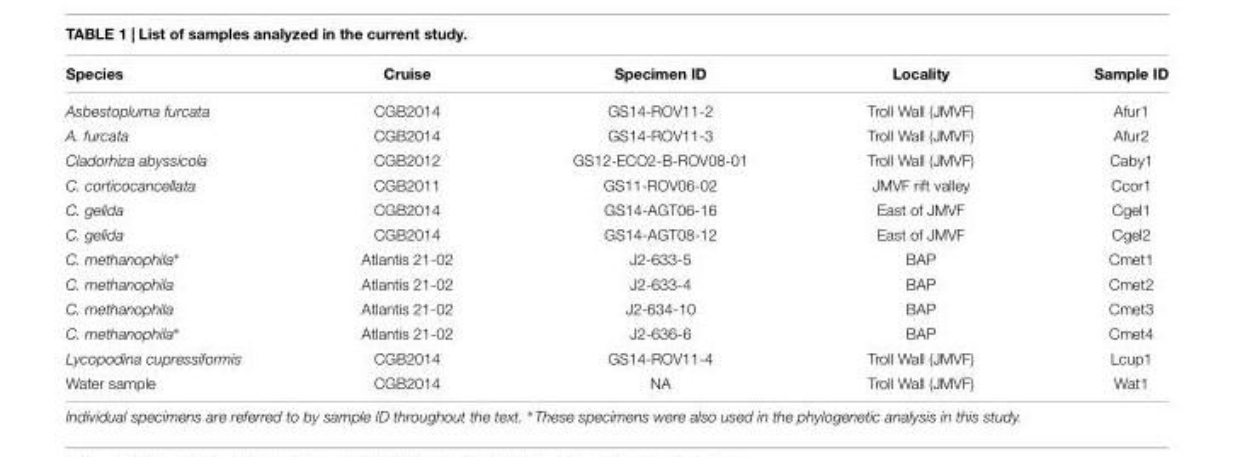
<table><thead><tr><td>Species</td><td>Cruise</td><td>Specimen ID</td><td>Locality</td><td>Sample ID</td></tr></thead><tbody><tr><td>Asbestopluma furcata</td><td>CGB2014</td><td>GS14-ROV11-2</td><td>Troll Wall (JMVF)</td><td>Afur1</td></tr><tr><td>A. furcata</td><td>CGB2014</td><td>GS14-ROV11-3</td><td>Troll Wall (JMVF)</td><td>Afur2</td></tr><tr><td>Cladorhiza abyssicola</td><td>CGB2012</td><td>GS12-ECO2-B-ROV08-01</td><td>Troll Wall (JMVF)</td><td>Caby1</td></tr><tr><td>C. corticocancellata</td><td>CGB2011</td><td>GS11-ROV06-02</td><td>JMVF rift valley</td><td>Ccor1</td></tr><tr><td>C. gelida</td><td>CGB2014</td><td>GS14-AGT06-16</td><td>East of JMVF</td><td>Cgel1</td></tr><tr><td>C. gelida</td><td>CGB2014</td><td>GS14-AGT08-12</td><td>East of JMVF</td><td>Cgel2</td></tr><tr><td>C. methanophila∗</td><td>Atlantis 21-02</td><td>J2-633-5</td><td>BAP</td><td>Cmet1</td></tr><tr><td>C. methanophila</td><td>Atlantis 21-02</td><td>J2-633-4</td><td>BAP</td><td>Cmet2</td></tr><tr><td>C. methanophila</td><td>Atlantis 21-02</td><td>J2-634-10</td><td>BAP</td><td>Cmet3</td></tr><tr><td>C. methanophila∗</td><td>Atlantis 21-02</td><td>J2-636-6</td><td>BAP</td><td>Cmet4</td></tr><tr><td>Lycopodina cupressiformis</td><td>CGB2014</td><td>GS14-ROV11-4</td><td>Troll Wall (JMVF)</td><td>Lcup1</td></tr><tr><td>Water sample</td><td>CGB2014</td><td>NA</td><td>Troll Wall (JMVF)</td><td>Wat1</td></tr></tbody></table>